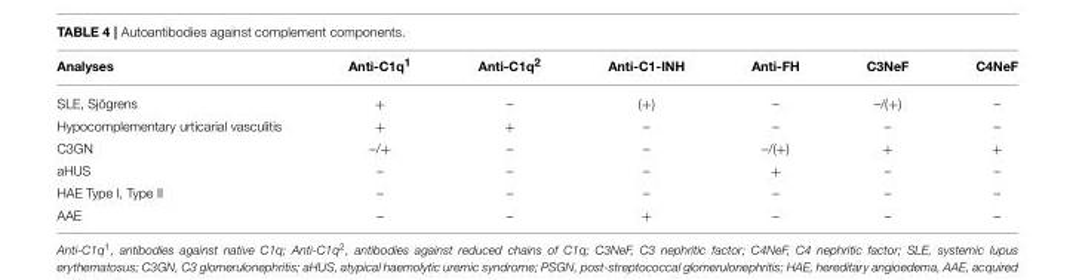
<table><thead><tr><td>Analyses</td><td>Anti-C1q<sup>1</sup></td><td>Anti-C1q<sup>2</sup></td><td>Anti-C1-INH</td><td>Anti-FH</td><td>C3NeF</td><td>C4NeF</td></tr></thead><tbody><tr><td>SLE, Sjögrens</td><td>+</td><td>–</td><td>(+)</td><td>–</td><td>–/(+)</td><td>–</td></tr><tr><td>Hypocomplementary urticarial vasculitis</td><td>+</td><td>+</td><td>–</td><td>–</td><td>–</td><td>–</td></tr><tr><td>C3GN</td><td>–/+</td><td>–</td><td>–</td><td>–/(+)</td><td>+</td><td>+</td></tr><tr><td>aHUS</td><td>–</td><td>–</td><td>–</td><td>+</td><td>–</td><td>–</td></tr><tr><td>HAE Type I, Type II</td><td>–</td><td>–</td><td>–</td><td>–</td><td>–</td><td>–</td></tr><tr><td>AAE</td><td>–</td><td>–</td><td>+</td><td>–</td><td>–</td><td>–</td></tr></tbody></table>